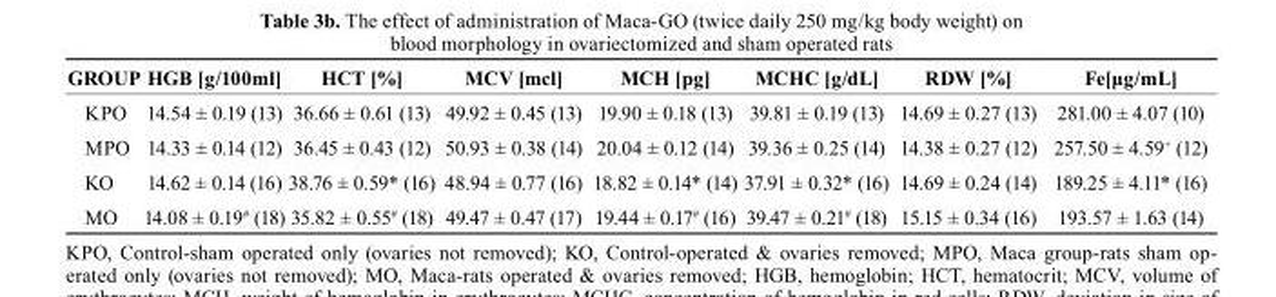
<table><thead><tr><td>GrOUP</td><td>HGb [g/100ml]</td><td>Hct [%]</td><td>McV [mcl]</td><td>McH [pg]</td><td>McHc [g/dL]</td><td>rDW [%]</td><td>Fe[μg/mL]</td></tr></thead><tbody><tr><td>KPO</td><td>14.54 ± 0.19 (13)</td><td>36.66 ± 0.61 (13)</td><td>49.92 ± 0.45 (13)</td><td>19.90 ± 0.18 (13)</td><td>39.81 ± 0.19 (13)</td><td>14.69 ± 0.27 (13)</td><td>281.00 ± 4.07 (10)</td></tr><tr><td>MPO</td><td>14.33 ± 0.14 (12)</td><td>36.45 ± 0.43 (12)</td><td>50.93 ± 0.38 (14)</td><td>20.04 ± 0.12 (14)</td><td>39.36 ± 0.25 (14)</td><td>14.38 ± 0.27 (12)</td><td>257.50 ± 4.59+ (12)</td></tr><tr><td>KO</td><td>14.62 ± 0.14 (16)</td><td>38.76 ± 0.59* (16)</td><td>48.94 ± 0.77 (16)</td><td>18.82 ± 0.14* (14)</td><td>37.91 ± 0.32* (16)</td><td>14.69 ± 0.24 (14)</td><td>189.25 ± 4.11* (16)</td></tr><tr><td>MO</td><td>14.08 ± 0.19# (18)</td><td>35.82 ± 0.55# (18)</td><td>49.47 ± 0.47 (17)</td><td>19.44 ± 0.17# (16)</td><td>39.47 ± 0.21# (18)</td><td>15.15 ± 0.34 (16)</td><td>193.57 ± 1.63 (14)</td></tr></tbody></table>